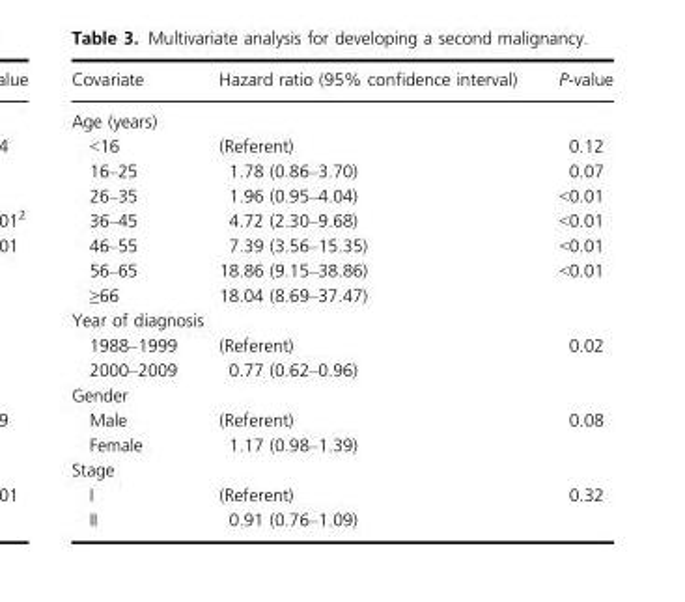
<table><thead><tr><td>Covariate</td><td>Hazard ratio (95% confidence interval)</td><td>P-value</td></tr></thead><tbody><tr><td colspan="3">Age (years)</td></tr><tr><td>&lt;16</td><td>(Referent)</td><td>0.12</td></tr><tr><td>16–25</td><td>1.78 (0.86–3.70)</td><td>0.07</td></tr><tr><td>26–35</td><td>1.96 (0.95–4.04)</td><td>&lt;0.01</td></tr><tr><td>36–45</td><td>4.72 (2.30–9.68)</td><td>&lt;0.01</td></tr><tr><td>46–55</td><td>7.39 (3.56–15.35)</td><td>&lt;0.01</td></tr><tr><td>56–65</td><td>18.86 (9.15–38.86)</td><td>&lt;0.01</td></tr><tr><td>≥66</td><td>18.04 (8.69–37.47)</td><td></td></tr><tr><td colspan="3">Year of diagnosis</td></tr><tr><td>1988–1999</td><td>(Referent)</td><td>0.02</td></tr><tr><td>2000–2009</td><td>0.77 (0.62–0.96)</td><td></td></tr><tr><td colspan="3">Gender</td></tr><tr><td>Male</td><td>(Referent)</td><td>0.08</td></tr><tr><td>Female</td><td>1.17 (0.98–1.39)</td><td></td></tr><tr><td colspan="3">Stage</td></tr><tr><td>I</td><td>(Referent)</td><td>0.32</td></tr><tr><td>II</td><td>0.91 (0.76–1.09)</td><td></td></tr></tbody></table>